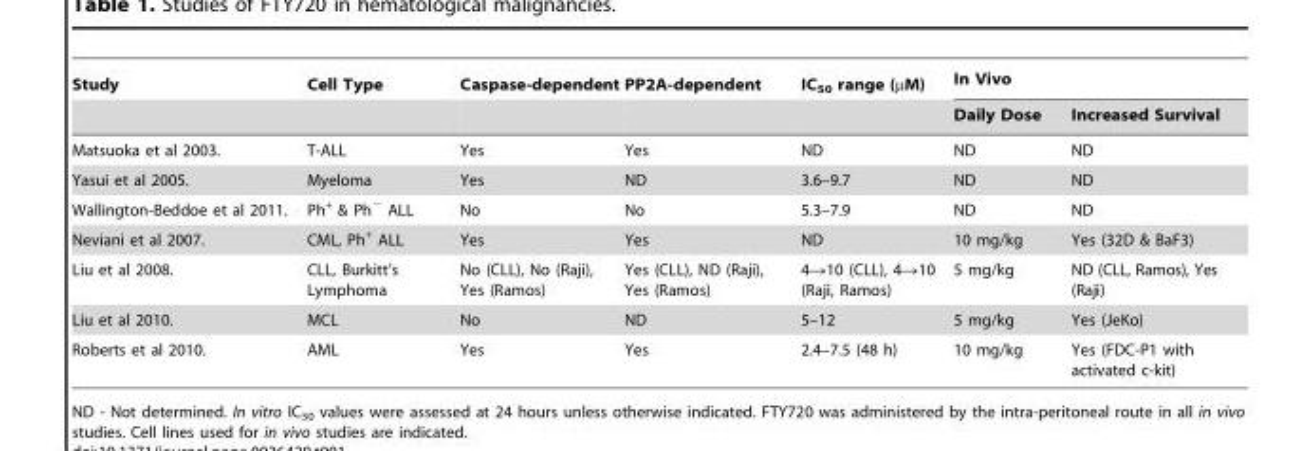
<table><thead><tr><td rowspan="2">Study</td><td rowspan="2">Cell Type</td><td rowspan="2">Caspase-dependent</td><td rowspan="2">PP2A-dependent</td><td rowspan="2">IC<sub>50</sub> range (µM)</td><td colspan="2">In Vivo</td></tr><tr><td>Daily Dose</td><td>Increased Survival</td></tr></thead><tbody><tr><td>Matsuoka et al 2003.</td><td>T-ALL</td><td>Yes</td><td>Yes</td><td>ND</td><td>ND</td><td>ND</td></tr><tr><td>Yasui et al 2005.</td><td>Myeloma</td><td>Yes</td><td>ND</td><td>3.6–9.7</td><td>ND</td><td>ND</td></tr><tr><td>Wallington-Beddoe et al 2011.</td><td>Ph<sup>+</sup> &amp; Ph<sup>−</sup> ALL</td><td>No</td><td>No</td><td>5.3–7.9</td><td>ND</td><td>ND</td></tr><tr><td>Neviani et al 2007.</td><td>CML, Ph<sup>+</sup> ALL</td><td>Yes</td><td>Yes</td><td>ND</td><td>10 mg/kg</td><td>Yes (32D &amp; BaF3)</td></tr><tr><td>Liu et al 2008.</td><td>CLL, Burkitt’s Lymphoma</td><td>No (CLL), No (Raji), Yes (Ramos)</td><td>Yes (CLL), ND (Raji), Yes (Ramos)</td><td>4→10 (CLL), 4→10 (Raji, Ramos)</td><td>5 mg/kg</td><td>ND (CLL, Ramos), Yes (Raji)</td></tr><tr><td>Liu et al 2010.</td><td>MCL</td><td>No</td><td>ND</td><td>5–12</td><td>5 mg/kg</td><td>Yes (JeKo)</td></tr><tr><td>Roberts et al 2010.</td><td>AML</td><td>Yes</td><td>Yes</td><td>2.4–7.5 (48 h)</td><td>10 mg/kg</td><td>Yes (FDC-P1 with activated c-kit)</td></tr></tbody></table>